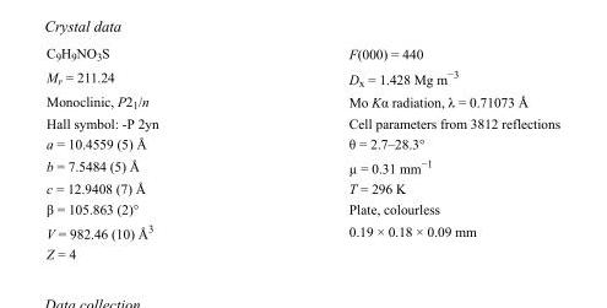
<table><tbody><tr><td>C<sub>9</sub>H<sub>9</sub>NO<sub>3</sub>S</td><td>F(000) = 440</td></tr><tr><td>M<sub>r</sub> = 211.24</td><td>D<sub>x</sub> = 1.428 Mg m<sup>−3</sup></td></tr><tr><td>Monoclinic, P2<sub>1</sub>/n</td><td>Mo Kα radiation, λ = 0.71073 Å</td></tr><tr><td>Hall symbol: -P 2yn</td><td>Cell parameters from 3812 reflections</td></tr><tr><td>a = 10.4559 (5) Å</td><td>θ = 2.7–28.3°</td></tr><tr><td>b = 7.5484 (5) Å</td><td>µ = 0.31 mm<sup>−1</sup></td></tr><tr><td>c = 12.9408 (7) Å</td><td>T = 296 K</td></tr><tr><td>β = 105.863 (2)°</td><td>Plate, colourless</td></tr><tr><td>V = 982.46 (10) Å<sup>3</sup></td><td>0.19 × 0.18 × 0.09 mm</td></tr><tr><td>Z = 4</td><td></td></tr></tbody></table>